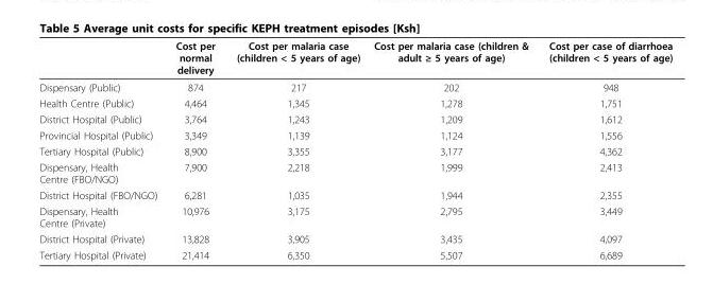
<table><thead><tr><td></td><td>Cost per normal delivery</td><td>Cost per malaria case (children &lt; 5 years of age)</td><td>Cost per malaria case (children &amp; adult ≥ 5 years of age)</td><td>Cost per case of diarrhoea (children &lt; 5 years of age)</td></tr></thead><tbody><tr><td>Dispensary (Public)</td><td>874</td><td>217</td><td>202</td><td>948</td></tr><tr><td>Health Centre (Public)</td><td>4,464</td><td>1,345</td><td>1,278</td><td>1,751</td></tr><tr><td>District Hospital (Public)</td><td>3,764</td><td>1,243</td><td>1,209</td><td>1,612</td></tr><tr><td>Provincial Hospital (Public)</td><td>3,349</td><td>1,139</td><td>1,124</td><td>1,556</td></tr><tr><td>Tertiary Hospital (Public)</td><td>8,900</td><td>3,355</td><td>3,177</td><td>4,362</td></tr><tr><td>Dispensary, Health Centre (FBO/NGO)</td><td>7,900</td><td>2,218</td><td>1,999</td><td>2,413</td></tr><tr><td>District Hospital (FBO/NGO)</td><td>6,281</td><td>1,035</td><td>1,944</td><td>2,355</td></tr><tr><td>Dispensary, Health Centre (Private)</td><td>10,976</td><td>3,175</td><td>2,795</td><td>3,449</td></tr><tr><td>District Hospital (Private)</td><td>13,828</td><td>3,905</td><td>3,435</td><td>4,097</td></tr><tr><td>Tertiary Hospital (Private)</td><td>21,414</td><td>6,350</td><td>5,507</td><td>6,689</td></tr></tbody></table>